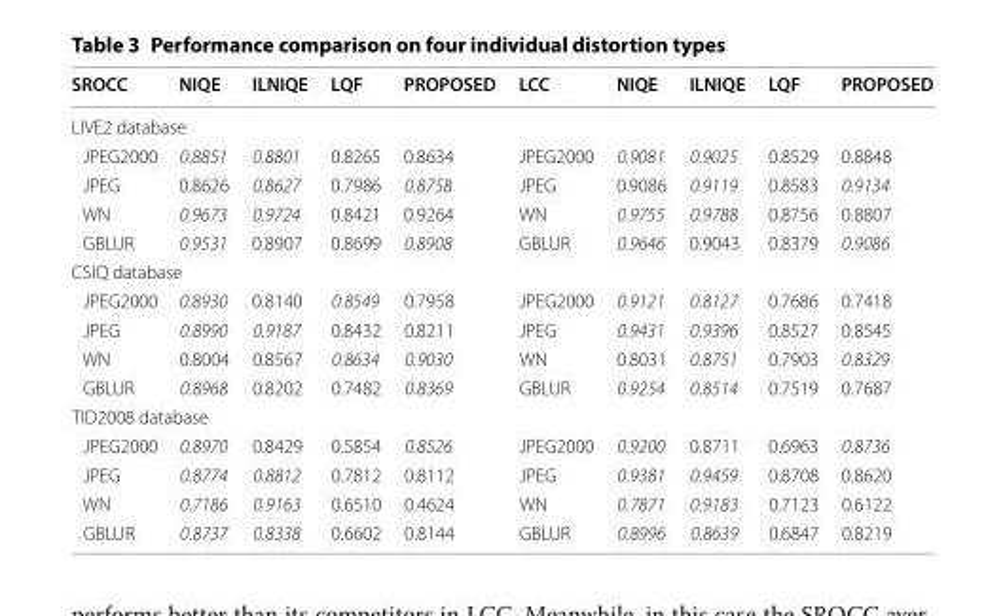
<table><thead><tr><td>SROCC</td><td>NIQE</td><td>ILNIQE</td><td>LQF</td><td>PROPOSED</td><td>LCC</td><td>NIQE</td><td>ILNIQE</td><td>LQF</td><td>PROPOSED</td></tr></thead><tbody><tr><td colspan="10">LIVE2 database</td></tr><tr><td>JPEG2000</td><td>0.8851</td><td>0.8801</td><td>0.8265</td><td>0.8634</td><td>JPEG2000</td><td>0.9081</td><td>0.9025</td><td>0.8529</td><td>0.8848</td></tr><tr><td>JPEG</td><td>0.8626</td><td>0.8627</td><td>0.7986</td><td>0.8758</td><td>JPEG</td><td>0.9086</td><td>0.9119</td><td>0.8583</td><td>0.9134</td></tr><tr><td>WN</td><td>0.9673</td><td>0.9724</td><td>0.8421</td><td>0.9264</td><td>WN</td><td>0.9755</td><td>0.9788</td><td>0.8756</td><td>0.8807</td></tr><tr><td>GBLUR</td><td>0.9531</td><td>0.8907</td><td>0.8699</td><td>0.8908</td><td>GBLUR</td><td>0.9646</td><td>0.9043</td><td>0.8379</td><td>0.9086</td></tr><tr><td colspan="10">CSIQ database</td></tr><tr><td>JPEG2000</td><td>0.8930</td><td>0.8140</td><td>0.8549</td><td>0.7958</td><td>JPEG2000</td><td>0.9121</td><td>0.8127</td><td>0.7686</td><td>0.7418</td></tr><tr><td>JPEG</td><td>0.8990</td><td>0.9187</td><td>0.8432</td><td>0.8211</td><td>JPEG</td><td>0.9431</td><td>0.9396</td><td>0.8527</td><td>0.8545</td></tr><tr><td>WN</td><td>0.8004</td><td>0.8567</td><td>0.8634</td><td>0.9030</td><td>WN</td><td>0.8031</td><td>0.8751</td><td>0.7903</td><td>0.8329</td></tr><tr><td>GBLUR</td><td>0.8968</td><td>0.8202</td><td>0.7482</td><td>0.8369</td><td>GBLUR</td><td>0.9254</td><td>0.8514</td><td>0.7519</td><td>0.7687</td></tr><tr><td colspan="10">TID2008 database</td></tr><tr><td>JPEG2000</td><td>0.8970</td><td>0.8429</td><td>0.5854</td><td>0.8526</td><td>JPEG2000</td><td>0.9200</td><td>0.8711</td><td>0.6963</td><td>0.8736</td></tr><tr><td>JPEG</td><td>0.8774</td><td>0.8812</td><td>0.7812</td><td>0.8112</td><td>JPEG</td><td>0.9381</td><td>0.9459</td><td>0.8708</td><td>0.8620</td></tr><tr><td>WN</td><td>0.7186</td><td>0.9163</td><td>0.6510</td><td>0.4624</td><td>WN</td><td>0.7871</td><td>0.9183</td><td>0.7123</td><td>0.6122</td></tr><tr><td>GBLUR</td><td>0.8737</td><td>0.8338</td><td>0.6602</td><td>0.8144</td><td>GBLUR</td><td>0.8996</td><td>0.8639</td><td>0.6847</td><td>0.8219</td></tr></tbody></table>